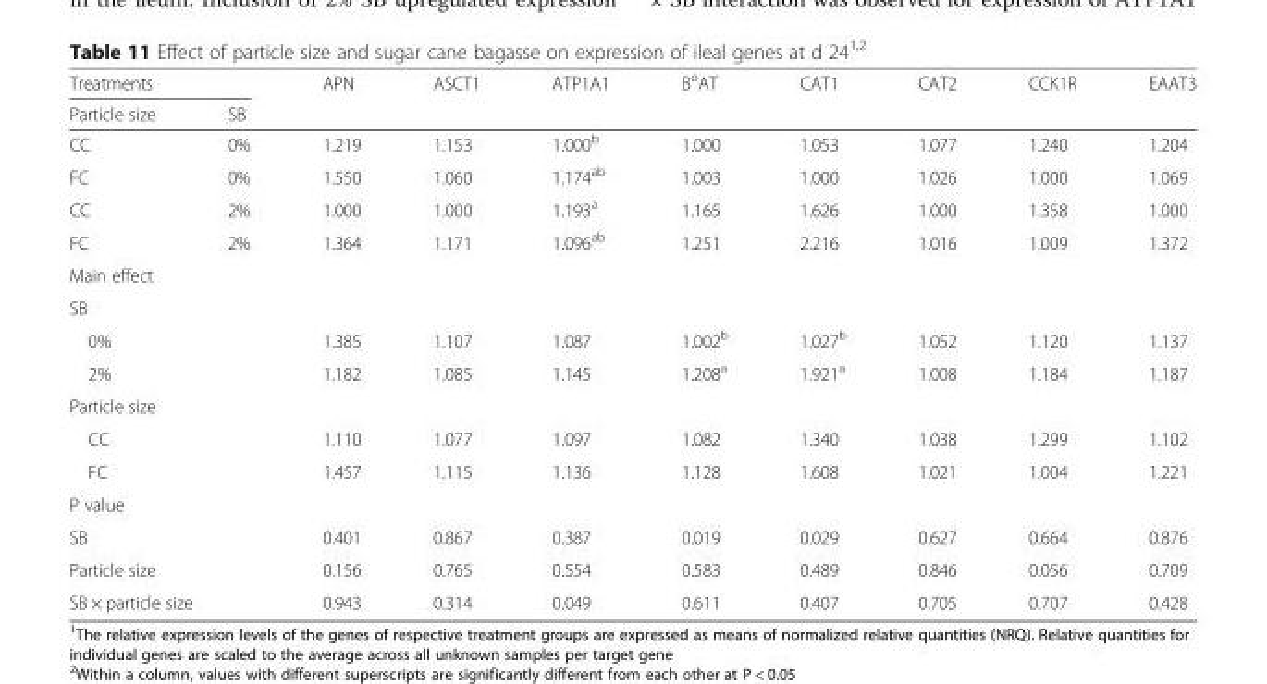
<table><thead><tr><td colspan="2">Treatments</td><td rowspan="2">APN</td><td rowspan="2">ASCT1</td><td rowspan="2">ATP1A1</td><td rowspan="2">B<sup>o</sup>AT</td><td rowspan="2">CAT1</td><td rowspan="2">CAT2</td><td rowspan="2">CCK1R</td><td rowspan="2">EAAT3</td></tr><tr><td>Particle size</td><td>SB</td></tr></thead><tbody><tr><td>CC</td><td>0%</td><td>1.219</td><td>1.153</td><td>1.000<sup>b</sup></td><td>1.000</td><td>1.053</td><td>1.077</td><td>1.240</td><td>1.204</td></tr><tr><td>FC</td><td>0%</td><td>1.550</td><td>1.060</td><td>1.174<sup>ab</sup></td><td>1.003</td><td>1.000</td><td>1.026</td><td>1.000</td><td>1.069</td></tr><tr><td>CC</td><td>2%</td><td>1.000</td><td>1.000</td><td>1.193<sup>a</sup></td><td>1.165</td><td>1.626</td><td>1.000</td><td>1.358</td><td>1.000</td></tr><tr><td>FC</td><td>2%</td><td>1.364</td><td>1.171</td><td>1.096<sup>ab</sup></td><td>1.251</td><td>2.216</td><td>1.016</td><td>1.009</td><td>1.372</td></tr><tr><td colspan="10">Main effect</td></tr><tr><td colspan="10">SB</td></tr><tr><td colspan="2">0%</td><td>1.385</td><td>1.107</td><td>1.087</td><td>1.002<sup>b</sup></td><td>1.027<sup>b</sup></td><td>1.052</td><td>1.120</td><td>1.137</td></tr><tr><td colspan="2">2%</td><td>1.182</td><td>1.085</td><td>1.145</td><td>1.208<sup>a</sup></td><td>1.921<sup>a</sup></td><td>1.008</td><td>1.184</td><td>1.187</td></tr><tr><td colspan="10">Particle size</td></tr><tr><td colspan="2">CC</td><td>1.110</td><td>1.077</td><td>1.097</td><td>1.082</td><td>1.340</td><td>1.038</td><td>1.299</td><td>1.102</td></tr><tr><td colspan="2">FC</td><td>1.457</td><td>1.115</td><td>1.136</td><td>1.128</td><td>1.608</td><td>1.021</td><td>1.004</td><td>1.221</td></tr><tr><td colspan="10">P value</td></tr><tr><td colspan="2">SB</td><td>0.401</td><td>0.867</td><td>0.387</td><td>0.019</td><td>0.029</td><td>0.627</td><td>0.664</td><td>0.876</td></tr><tr><td colspan="2">Particle size</td><td>0.156</td><td>0.765</td><td>0.554</td><td>0.583</td><td>0.489</td><td>0.846</td><td>0.056</td><td>0.709</td></tr><tr><td colspan="2">SB × particle size</td><td>0.943</td><td>0.314</td><td>0.049</td><td>0.611</td><td>0.407</td><td>0.705</td><td>0.707</td><td>0.428</td></tr></tbody></table>